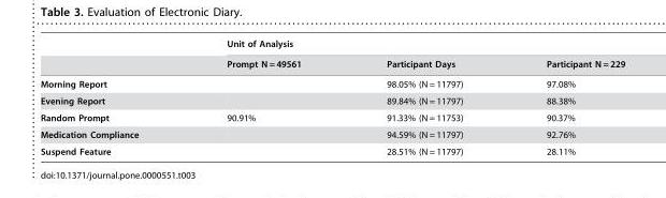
<table><thead><tr><td rowspan="2"></td><td colspan="3">Unit of Analysis</td></tr><tr><td>Prompt N = 49561</td><td>Participant Days</td><td>Participant N = 229</td></tr></thead><tbody><tr><td>Morning Report</td><td></td><td>98.05% (N = 11797)</td><td>97.08%</td></tr><tr><td>Evening Report</td><td></td><td>89.84% (N = 11797)</td><td>88.38%</td></tr><tr><td>Random Prompt</td><td>90.91%</td><td>91.33% (N = 11753)</td><td>90.37%</td></tr><tr><td>Medication Compliance</td><td></td><td>94.59% (N = 11797)</td><td>92.76%</td></tr><tr><td>Suspend Feature</td><td></td><td>28.51% (N = 11797)</td><td>28.11%</td></tr></tbody></table>